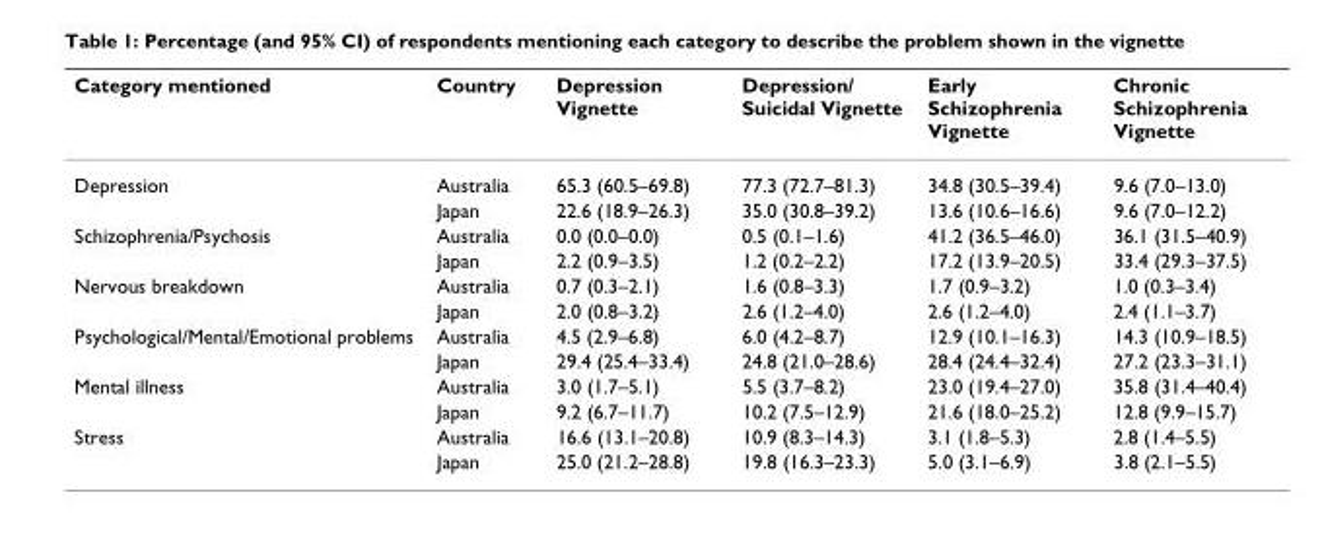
<table><thead><tr><td>Category mentioned</td><td>Country</td><td>Depression Vignette</td><td>Depression/ Suicidal Vignette</td><td>Early Schizophrenia Vignette</td><td>Chronic Schizophrenia Vignette</td></tr></thead><tbody><tr><td rowspan="2">Depression</td><td>Australia</td><td>65.3 (60.5–69.8)</td><td>77.3 (72.7–81.3)</td><td>34.8 (30.5–39.4)</td><td>9.6 (7.0–13.0)</td></tr><tr><td>Japan</td><td>22.6 (18.9–26.3)</td><td>35.0 (30.8–39.2)</td><td>13.6 (10.6–16.6)</td><td>9.6 (7.0–12.2)</td></tr><tr><td rowspan="2">Schizophrenia/Psychosis</td><td>Australia</td><td>0.0 (0.0–0.0)</td><td>0.5 (0.1–1.6)</td><td>41.2 (36.5–46.0)</td><td>36.1 (31.5–40.9)</td></tr><tr><td>Japan</td><td>2.2 (0.9–3.5)</td><td>1.2 (0.2–2.2)</td><td>17.2 (13.9–20.5)</td><td>33.4 (29.3–37.5)</td></tr><tr><td rowspan="2">Nervous breakdown</td><td>Australia</td><td>0.7 (0.3–2.1)</td><td>1.6 (0.8–3.3)</td><td>1.7 (0.9–3.2)</td><td>1.0 (0.3–3.4)</td></tr><tr><td>Japan</td><td>2.0 (0.8–3.2)</td><td>2.6 (1.2–4.0)</td><td>2.6 (1.2–4.0)</td><td>2.4 (1.1–3.7)</td></tr><tr><td rowspan="2">Psychological/Mental/Emotional problems</td><td>Australia</td><td>4.5 (2.9–6.8)</td><td>6.0 (4.2–8.7)</td><td>12.9 (10.1–16.3)</td><td>14.3 (10.9–18.5)</td></tr><tr><td>Japan</td><td>29.4 (25.4–33.4)</td><td>24.8 (21.0–28.6)</td><td>28.4 (24.4–32.4)</td><td>27.2 (23.3–31.1)</td></tr><tr><td rowspan="2">Mental illness</td><td>Australia</td><td>3.0 (1.7–5.1)</td><td>5.5 (3.7–8.2)</td><td>23.0 (19.4–27.0)</td><td>35.8 (31.4–40.4)</td></tr><tr><td>Japan</td><td>9.2 (6.7–11.7)</td><td>10.2 (7.5–12.9)</td><td>21.6 (18.0–25.2)</td><td>12.8 (9.9–15.7)</td></tr><tr><td rowspan="2">Stress</td><td>Australia</td><td>16.6 (13.1–20.8)</td><td>10.9 (8.3–14.3)</td><td>3.1 (1.8–5.3)</td><td>2.8 (1.4–5.5)</td></tr><tr><td>Japan</td><td>25.0 (21.2–28.8)</td><td>19.8 (16.3–23.3)</td><td>5.0 (3.1–6.9)</td><td>3.8 (2.1–5.5)</td></tr></tbody></table>